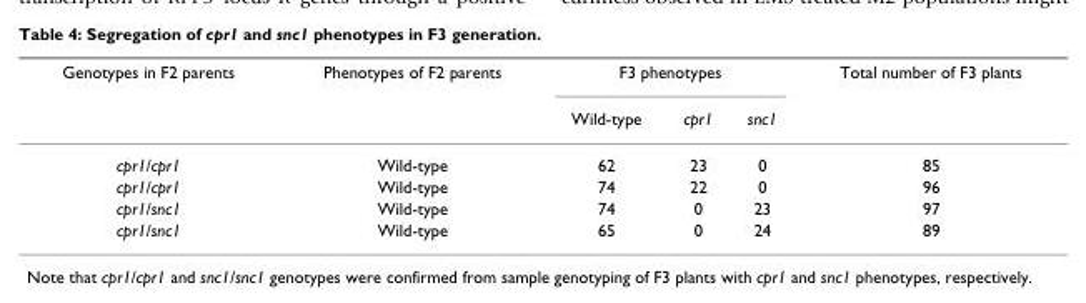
<table><thead><tr><td rowspan="2">Genotypes in F2 parents</td><td rowspan="2">Phenotypes of F2 parents</td><td colspan="3">F3 phenotypes</td><td rowspan="2">Total number of F3 plants</td></tr><tr><td>Wild-type</td><td>cpr1</td><td>snc1</td></tr></thead><tbody><tr><td>cpr1/cpr1</td><td>Wild-type</td><td>62</td><td>23</td><td>0</td><td>85</td></tr><tr><td>cpr1/cpr1</td><td>Wild-type</td><td>74</td><td>22</td><td>0</td><td>96</td></tr><tr><td>cpr1/snc1</td><td>Wild-type</td><td>74</td><td>0</td><td>23</td><td>97</td></tr><tr><td>cpr1/snc1</td><td>Wild-type</td><td>65</td><td>0</td><td>24</td><td>89</td></tr></tbody></table>